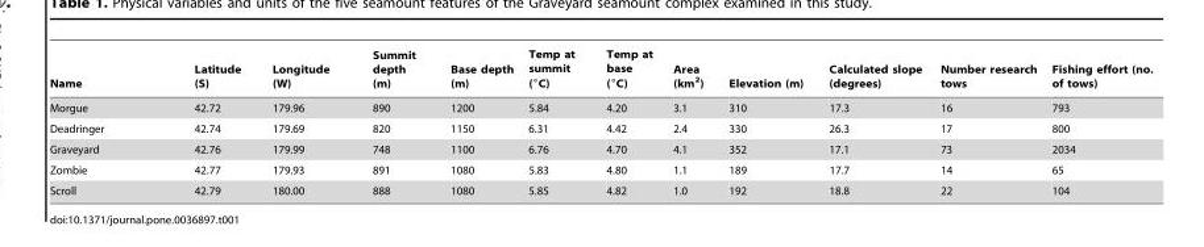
<table><thead><tr><td>Name</td><td>Latitude (S)</td><td>Longitude (W)</td><td>Summit depth (m)</td><td>Base depth (m)</td><td>Temp at summit (°C)</td><td>Temp at base (°C)</td><td>Area (km<sup>2</sup>)</td><td>Elevation (m)</td><td>Calculated slope (degrees)</td><td>Number research tows</td><td>Fishing effort (no. of tows)</td></tr></thead><tbody><tr><td>Morgue</td><td>42.72</td><td>179.96</td><td>890</td><td>1200</td><td>5.84</td><td>4.20</td><td>3.1</td><td>310</td><td>17.3</td><td>16</td><td>793</td></tr><tr><td>Deadringer</td><td>42.74</td><td>179.69</td><td>820</td><td>1150</td><td>6.31</td><td>4.42</td><td>2.4</td><td>330</td><td>26.3</td><td>17</td><td>800</td></tr><tr><td>Graveyard</td><td>42.76</td><td>179.99</td><td>748</td><td>1100</td><td>6.76</td><td>4.70</td><td>4.1</td><td>352</td><td>17.1</td><td>73</td><td>2034</td></tr><tr><td>Zombie</td><td>42.77</td><td>179.93</td><td>891</td><td>1080</td><td>5.83</td><td>4.80</td><td>1.1</td><td>189</td><td>17.7</td><td>14</td><td>65</td></tr><tr><td>Scroll</td><td>42.79</td><td>180.00</td><td>888</td><td>1080</td><td>5.85</td><td>4.82</td><td>1.0</td><td>192</td><td>18.8</td><td>22</td><td>104</td></tr></tbody></table>